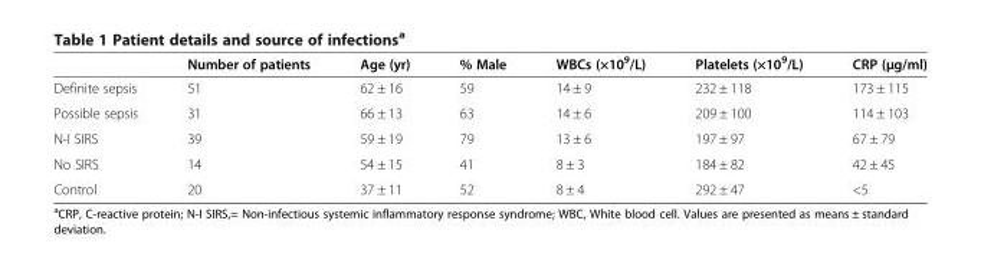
<table><thead><tr><td></td><td>Number of patients</td><td>Age (yr)</td><td>% Male</td><td>WBCs (×10<sup>9</sup>/L)</td><td>Platelets (×10<sup>9</sup>/L)</td><td>CRP (μg/ml)</td></tr></thead><tbody><tr><td>Definite sepsis</td><td>51</td><td>62 ± 16</td><td>59</td><td>14 ± 9</td><td>232 ± 118</td><td>173 ± 115</td></tr><tr><td>Possible sepsis</td><td>31</td><td>66 ± 13</td><td>63</td><td>14 ± 6</td><td>209 ± 100</td><td>114 ± 103</td></tr><tr><td>N-I SIRS</td><td>39</td><td>59 ± 19</td><td>79</td><td>13 ± 6</td><td>197 ± 97</td><td>67 ± 79</td></tr><tr><td>No SIRS</td><td>14</td><td>54 ± 15</td><td>41</td><td>8 ± 3</td><td>184 ± 82</td><td>42 ± 45</td></tr><tr><td>Control</td><td>20</td><td>37 ± 11</td><td>52</td><td>8 ± 4</td><td>292 ± 47</td><td>&lt;5</td></tr></tbody></table>